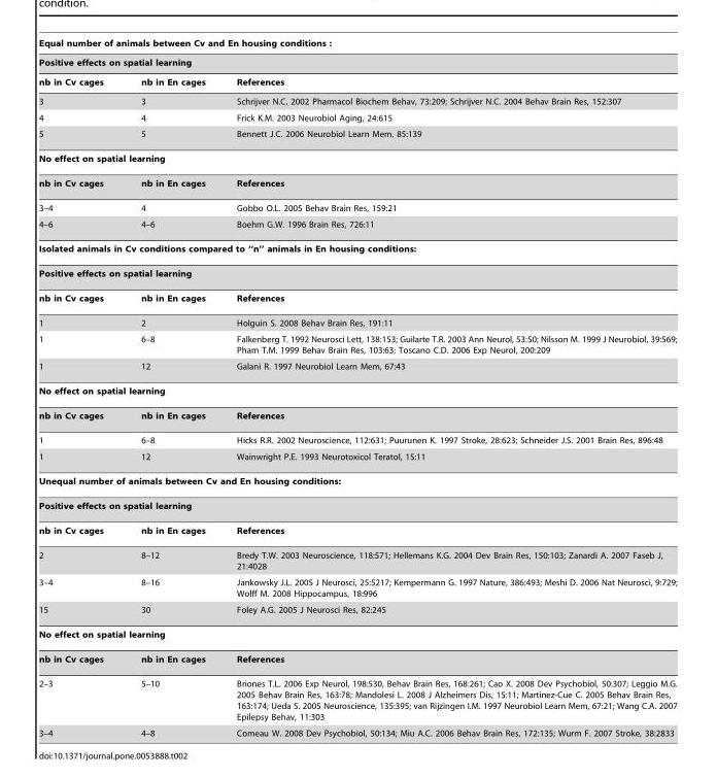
<table><thead><tr><td rowspan="2" colspan="3">Equal number of animals between Cv and En housing conditions : Positive effects on spatial learning</td></tr><tr></tr><tr><td>nb in Cv cages</td><td>nb in En cages</td><td>References</td></tr></thead><tbody><tr><td>3</td><td>3</td><td>Schrijver N.C. 2002 Pharmacol Biochem Behav, 73:209; Schrijver N.C. 2004 Behav Brain Res, 152:307</td></tr><tr><td>4</td><td>4</td><td>Frick K.M. 2003 Neurobiol Aging, 24:615</td></tr><tr><td>5</td><td>5</td><td>Bennett J.C. 2006 Neurobiol Learn Mem, 85:139</td></tr><tr><td colspan="3">No effect on spatial learning</td></tr><tr><td>nb in Cv cages</td><td>nb in En cages</td><td>References</td></tr><tr><td>3–4</td><td>4</td><td>Gobbo O.L. 2005 Behav Brain Res, 159:21</td></tr><tr><td>4–6</td><td>4–6</td><td>Boehm G.W. 1996 Brain Res, 726:11</td></tr><tr><td colspan="3">Isolated animals in Cv conditions compared to ‘‘n’’ animals in En housing conditions:</td></tr><tr><td colspan="3">Positive effects on spatial learning</td></tr><tr><td>nb in Cv cages</td><td>nb in En cages</td><td>References</td></tr><tr><td>1</td><td>2</td><td>Holguin S. 2008 Behav Brain Res, 191:11</td></tr><tr><td>1</td><td>6–8</td><td>Falkenberg T. 1992 Neurosci Lett, 138:153; Guilarte T.R. 2003 Ann Neurol, 53:50; Nilsson M. 1999 J Neurobiol, 39:569; Pham T.M. 1999 Behav Brain Res, 103:63; Toscano C.D. 2006 Exp Neurol, 200:209</td></tr><tr><td>1</td><td>12</td><td>Galani R. 1997 Neurobiol Learn Mem, 67:43</td></tr><tr><td colspan="3">No effect on spatial learning</td></tr><tr><td>nb in Cv cages</td><td>nb in En cages</td><td>References</td></tr><tr><td>1</td><td>6–8</td><td>Hicks R.R. 2002 Neuroscience, 112:631; Puurunen K. 1997 Stroke, 28:623; Schneider J.S. 2001 Brain Res, 896:48</td></tr><tr><td>1</td><td>12</td><td>Wainwright P.E. 1993 Neurotoxicol Teratol, 15:11</td></tr><tr><td colspan="3">Unequal number of animals between Cv and En housing conditions:</td></tr><tr><td colspan="3">Positive effects on spatial learning</td></tr><tr><td>nb in Cv cages</td><td>nb in En cages</td><td>References</td></tr><tr><td>2</td><td>8–12</td><td>Bredy T.W. 2003 Neuroscience, 118:571; Hellemans K.G. 2004 Dev Brain Res, 150:103; Zanardi A. 2007 Faseb J, 21:4028</td></tr><tr><td>3–4</td><td>8–16</td><td>Jankowsky J.L. 2005 J Neurosci, 25:5217; Kempermann G. 1997 Nature, 386:493; Meshi D. 2006 Nat Neurosci, 9:729; Wolff M. 2008 Hippocampus, 18:996</td></tr><tr><td>15</td><td>30</td><td>Foley A.G. 2005 J Neurosci Res, 82:245</td></tr><tr><td colspan="3">No effect on spatial learning</td></tr><tr><td>nb in Cv cages</td><td>nb in En cages</td><td>References</td></tr><tr><td>2–3</td><td>5–10</td><td>Briones T.L. 2006 Exp Neurol, 198:530, Behav Brain Res, 168:261; Cao X. 2008 Dev Psychobiol, 50:307; Leggio M.G. 2005 Behav Brain Res, 163:78; Mandolesi L. 2008 J Alzheimers Dis, 15:11; Martinez-Cue C. 2005 Behav Brain Res, 163:174; Ueda S. 2005 Neuroscience, 135:395; van Rijzingen I.M. 1997 Neurobiol Learn Mem, 67:21; Wang C.A. 2007 Epilepsy Behav, 11:303</td></tr><tr><td>3–4</td><td>4–8</td><td>Comeau W. 2008 Dev Psychobiol, 50:134; Miu A.C. 2006 Behav Brain Res, 172:135; Wurm F. 2007 Stroke, 38:2833</td></tr></tbody></table>